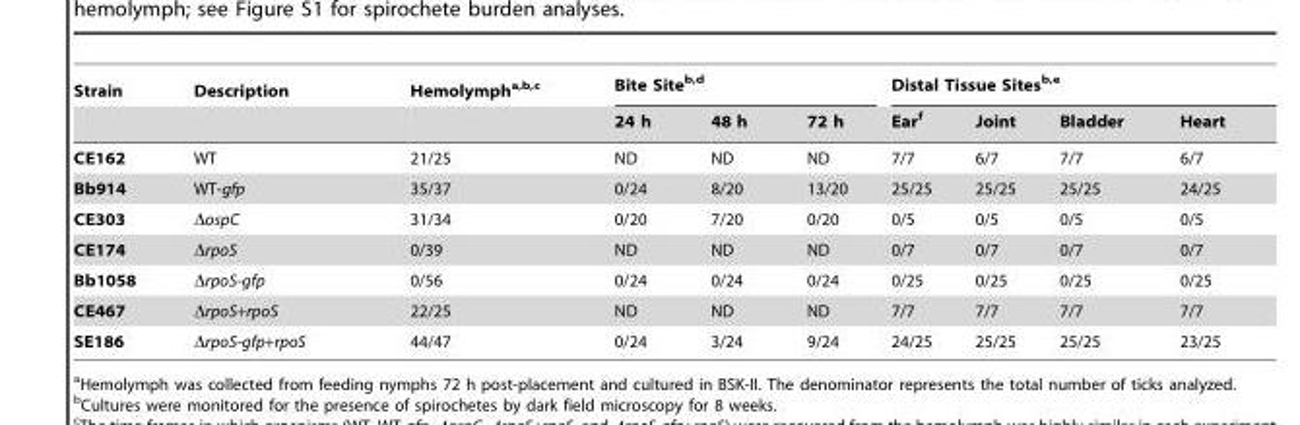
<table><thead><tr><td rowspan="2">Strain</td><td rowspan="2">Description</td><td rowspan="2">Hemolymph<sup>a,</sup>b<sup>,</sup>c</td><td colspan="3">Bite Site<sup>b,</sup>d</td><td colspan="4">Distal Tissue Sites<sup>b,</sup>e</td></tr><tr><td>24 h</td><td>48 h</td><td>72 h</td><td>Ear<sup>f</sup></td><td>Joint</td><td>Bladder</td><td>Heart</td></tr></thead><tbody><tr><td>CE162</td><td>WT</td><td>21/25</td><td>ND</td><td>ND</td><td>ND</td><td>7/7</td><td>6/7</td><td>7/7</td><td>6/7</td></tr><tr><td>Bb914</td><td>WT-gfp</td><td>35/37</td><td>0/24</td><td>8/20</td><td>13/20</td><td>25/25</td><td>25/25</td><td>25/25</td><td>24/25</td></tr><tr><td>CE303</td><td>ΔospC</td><td>31/34</td><td>0/20</td><td>7/20</td><td>0/20</td><td>0/5</td><td>0/5</td><td>0/5</td><td>0/5</td></tr><tr><td>CE174</td><td>ΔrpoS</td><td>0/39</td><td>ND</td><td>ND</td><td>ND</td><td>0/7</td><td>0/7</td><td>0/7</td><td>0/7</td></tr><tr><td>Bb1058</td><td>ΔrpoS-gfp</td><td>0/56</td><td>0/24</td><td>0/24</td><td>0/24</td><td>0/25</td><td>0/25</td><td>0/25</td><td>0/25</td></tr><tr><td>CE467</td><td>ΔrpoS+rpoS</td><td>22/25</td><td>ND</td><td>ND</td><td>ND</td><td>7/7</td><td>7/7</td><td>7/7</td><td>7/7</td></tr><tr><td>SE186</td><td>ΔrpoS-gfp+rpoS</td><td>44/47</td><td>0/24</td><td>3/24</td><td>9/24</td><td>24/25</td><td>25/25</td><td>25/25</td><td>23/25</td></tr></tbody></table>